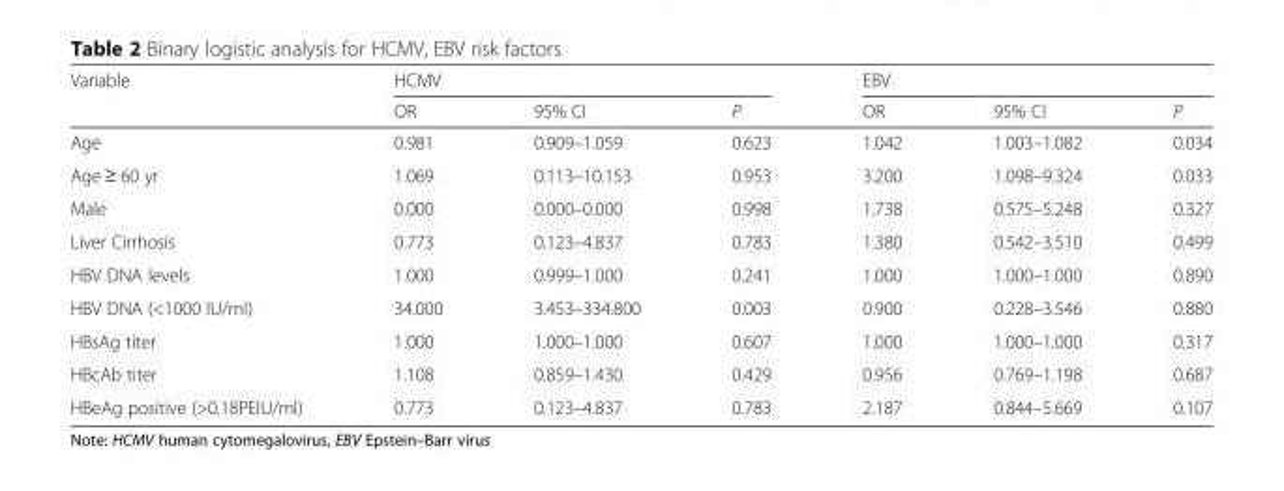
<table><thead><tr><td rowspan="2">Variable</td><td colspan="3">HCMV</td><td colspan="3">EBV</td></tr><tr><td>OR</td><td>95% CI</td><td>P</td><td>OR</td><td>95% CI</td><td>P</td></tr></thead><tbody><tr><td>Age</td><td>0.981</td><td>0.909–1.059</td><td>0.623</td><td>1.042</td><td>1.003–1.082</td><td>0.034</td></tr><tr><td>Age ≥ 60 yr</td><td>1.069</td><td>0.113–10.153</td><td>0.953</td><td>3.200</td><td>1.098–9.324</td><td>0.033</td></tr><tr><td>Male</td><td>0.000</td><td>0.000–0.000</td><td>0.998</td><td>1.738</td><td>0.575–5.248</td><td>0.327</td></tr><tr><td>Liver Cirrhosis</td><td>0.773</td><td>0.123–4.837</td><td>0.783</td><td>1.380</td><td>0.542–3.510</td><td>0.499</td></tr><tr><td>HBV DNA levels</td><td>1.000</td><td>0.999–1.000</td><td>0.241</td><td>1.000</td><td>1.000–1.000</td><td>0.890</td></tr><tr><td>HBV DNA (&lt;1000 IU/ml)</td><td>34.000</td><td>3.453–334.800</td><td>0.003</td><td>0.900</td><td>0.228–3.546</td><td>0.880</td></tr><tr><td>HBsAg titer</td><td>1.000</td><td>1.000–1.000</td><td>0.607</td><td>1.000</td><td>1.000–1.000</td><td>0.317</td></tr><tr><td>HBcAb titer</td><td>1.108</td><td>0.859–1.430</td><td>0.429</td><td>0.956</td><td>0.769–1.198</td><td>0.687</td></tr><tr><td>HBeAg positive (&gt;0.18PEIU/ml)</td><td>0.773</td><td>0.123–4.837</td><td>0.783</td><td>2.187</td><td>0.844–5.669</td><td>0.107</td></tr></tbody></table>